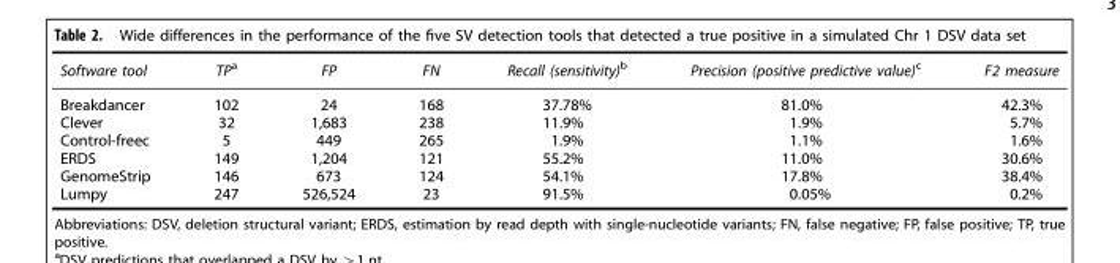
<table><thead><tr><td>Software tool</td><td>TP<sup>a</sup></td><td>FP</td><td>FN</td><td>Recall (sensitivity)<sup>b</sup></td><td>Precision (positive predictive value)<sup>c</sup></td><td>F2 measure</td></tr></thead><tbody><tr><td>Breakdancer</td><td>102</td><td>24</td><td>168</td><td>37.78%</td><td>81.0%</td><td>42.3%</td></tr><tr><td>Clever</td><td>32</td><td>1,683</td><td>238</td><td>11.9%</td><td>1.9%</td><td>5.7%</td></tr><tr><td>Control-freec</td><td>5</td><td>449</td><td>265</td><td>1.9%</td><td>1.1%</td><td>1.6%</td></tr><tr><td>ERDS</td><td>149</td><td>1,204</td><td>121</td><td>55.2%</td><td>11.0%</td><td>30.6%</td></tr><tr><td>GenomeStrip</td><td>146</td><td>673</td><td>124</td><td>54.1%</td><td>17.8%</td><td>38.4%</td></tr><tr><td>Lumpy</td><td>247</td><td>526,524</td><td>23</td><td>91.5%</td><td>0.05%</td><td>0.2%</td></tr></tbody></table>